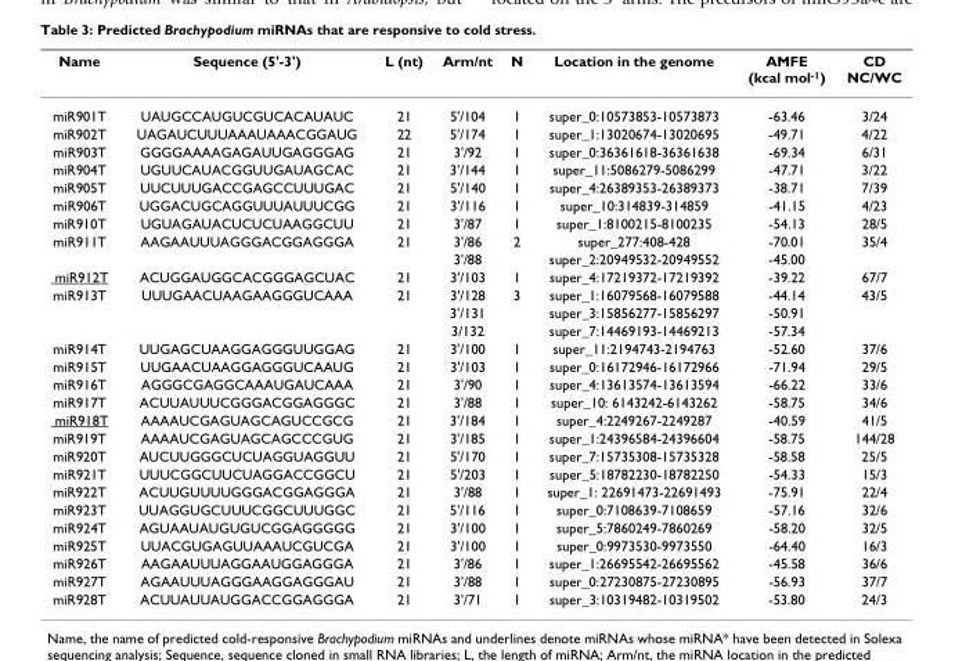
<table><thead><tr><td>Name</td><td>Sequence (5&#x27;-3&#x27;)</td><td>L (nt)</td><td>Arm/nt</td><td>N</td><td>Location in the genome</td><td>AMFE (kcal mol<sup>-1</sup>)</td><td>CD NC/WC</td></tr></thead><tbody><tr><td>miR901T</td><td>UAUGCCAUGUCGUCACAUAUC</td><td>21</td><td>5&#x27;/104</td><td>1</td><td>super_0:10573853-10573873</td><td>-63.46</td><td>3/24</td></tr><tr><td>miR902T</td><td>UAGAUCUUUAAAUAAACGGAUG</td><td>22</td><td>5&#x27;/174</td><td>1</td><td>super_1:13020674-13020695</td><td>-49.71</td><td>4/22</td></tr><tr><td>miR903T</td><td>GGGGAAAAGAGAUUGAGGGAG</td><td>21</td><td>3&#x27;/92</td><td>1</td><td>super_0:36361618-36361638</td><td>-69.34</td><td>6/31</td></tr><tr><td>miR904T</td><td>UGUUCAUACGGUUGAUAGCAC</td><td>21</td><td>3&#x27;/144</td><td>1</td><td>super_11:5086279-5086299</td><td>-47.71</td><td>3/22</td></tr><tr><td>miR905T</td><td>UUCUUUGACCGAGCCUUUGAC</td><td>21</td><td>5&#x27;/140</td><td>1</td><td>super_4:26389353-26389373</td><td>-38.71</td><td>7/39</td></tr><tr><td>miR906T</td><td>UGGACUGCAGGUUUAUUUCGG</td><td>21</td><td>3&#x27;/116</td><td>1</td><td>super_10:314839-314859</td><td>-41.15</td><td>4/23</td></tr><tr><td>miR910T</td><td>UGUAGAUACUCUCUAAGGCUU</td><td>21</td><td>3&#x27;/87</td><td>1</td><td>super_1:8100215-8100235</td><td>-54.13</td><td>28/5</td></tr><tr><td rowspan="2">miR911T</td><td>AAGAAUUUAGGGACGGAGGGA</td><td>21</td><td>3&#x27;/86</td><td>2</td><td>super_277:408-428</td><td>-70.01</td><td>35/4</td></tr><tr><td></td><td></td><td>3&#x27;/88</td><td></td><td>super_2:20949532-20949552</td><td>-45.00</td><td></td></tr><tr><td>miR912T</td><td>ACUGGAUGGCACGGGAGCUAC</td><td>21</td><td>3&#x27;/103</td><td>1</td><td>super_4:17219372-17219392</td><td>-39.22</td><td>67/7</td></tr><tr><td rowspan="3">miR913T</td><td>UUUGAACUAAGAAGGGUCAAA</td><td>21</td><td>3&#x27;/128</td><td>3</td><td>super_1:16079568-16079588</td><td>-44.14</td><td>43/5</td></tr><tr><td></td><td></td><td>3&#x27;/131</td><td></td><td>super_3:15856277-15856297</td><td>-50.91</td><td></td></tr><tr><td></td><td></td><td>3/132</td><td></td><td>super_7:14469193-14469213</td><td>-57.34</td><td></td></tr><tr><td>miR914T</td><td>UUGAGCUAAGGAGGGUUGGAG</td><td>21</td><td>3&#x27;/100</td><td>1</td><td>super_11:2194743-2194763</td><td>-52.60</td><td>37/6</td></tr><tr><td>miR915T</td><td>UUGAACUAAGGAGGGUCAAUG</td><td>21</td><td>3&#x27;/103</td><td>1</td><td>super_0:16172946-16172966</td><td>-71.94</td><td>29/5</td></tr><tr><td>miR916T</td><td>AGGGCGAGGCAAAUGAUCAAA</td><td>21</td><td>3&#x27;/90</td><td>1</td><td>super_4:13613574-13613594</td><td>-66.22</td><td>33/6</td></tr><tr><td>miR917T</td><td>ACUUAUUUCGGGACGGAGGGC</td><td>21</td><td>3&#x27;/88</td><td>1</td><td>super_10: 6143242-6143262</td><td>-58.75</td><td>34/6</td></tr><tr><td>miR918T</td><td>AAAAUCGAGUAGCAGUCCGCG</td><td>21</td><td>3&#x27;/184</td><td>1</td><td>super_4:2249267-2249287</td><td>-40.59</td><td>41/5</td></tr><tr><td>miR919T</td><td>AAAAUCGAGUAGCAGCCCGUG</td><td>21</td><td>3&#x27;/185</td><td>1</td><td>super_1:24396584-24396604</td><td>-58.75</td><td>144/28</td></tr><tr><td>miR920T</td><td>AUCUUGGGCUCUAGGUAGGUU</td><td>21</td><td>5&#x27;/170</td><td>1</td><td>super_7:15735308-15735328</td><td>-58.58</td><td>25/5</td></tr><tr><td>miR921T</td><td>UUUCGGCUUCUAGGACCGGCU</td><td>21</td><td>5&#x27;/203</td><td>1</td><td>super_5:18782230-18782250</td><td>-54.33</td><td>15/3</td></tr><tr><td>miR922T</td><td>ACUUGUUUUGGGACGGAGGGA</td><td>21</td><td>3&#x27;/88</td><td>1</td><td>super_1: 22691473-22691493</td><td>-75.91</td><td>22/4</td></tr><tr><td>miR923T</td><td>UUAGGUGCUUUCGGCUUUGGC</td><td>21</td><td>5&#x27;/116</td><td>1</td><td>super_0:7108639-7108659</td><td>-57.16</td><td>32/6</td></tr><tr><td>miR924T</td><td>AGUAAUAUGUGUCGGAGGGGG</td><td>21</td><td>3&#x27;/100</td><td>1</td><td>super_5:7860249-7860269</td><td>-58.20</td><td>32/5</td></tr><tr><td>miR925T</td><td>UUACGUGAGUUAAAUCGUCGA</td><td>21</td><td>3&#x27;/100</td><td>1</td><td>super_0:9973530-9973550</td><td>-64.40</td><td>16/3</td></tr><tr><td>miR926T</td><td>AAGAAUUUAGGAAUGGAGGGA</td><td>21</td><td>3&#x27;/86</td><td>1</td><td>super_1:26695542-26695562</td><td>-45.58</td><td>36/6</td></tr><tr><td>miR927T</td><td>AGAAUUUAGGGAAGGAGGGAU</td><td>21</td><td>3&#x27;/88</td><td>1</td><td>super_0:27230875-27230895</td><td>-56.93</td><td>37/7</td></tr><tr><td>miR928T</td><td>ACUUAUUAUGGACCGGAGGGA</td><td>21</td><td>3&#x27;/71</td><td>1</td><td>super_3:10319482-10319502</td><td>-53.80</td><td>24/3</td></tr></tbody></table>